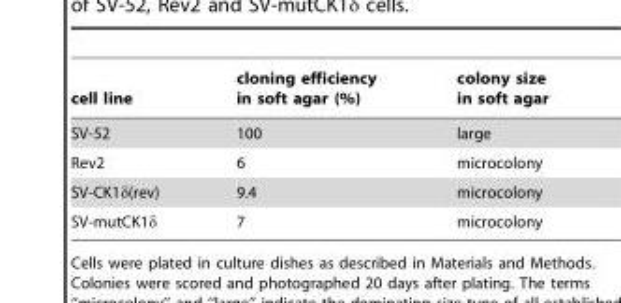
<table><thead><tr><td>cell line</td><td>cloning efficiency in soft agar (%)</td><td>colony size in soft agar</td></tr></thead><tbody><tr><td>SV-52</td><td>100</td><td>large</td></tr><tr><td>Rev2</td><td>6</td><td>microcolony</td></tr><tr><td>SV-CK1δ(rev)</td><td>9.4</td><td>microcolony</td></tr><tr><td>SV-mutCK1δ</td><td>7</td><td>microcolony</td></tr></tbody></table>